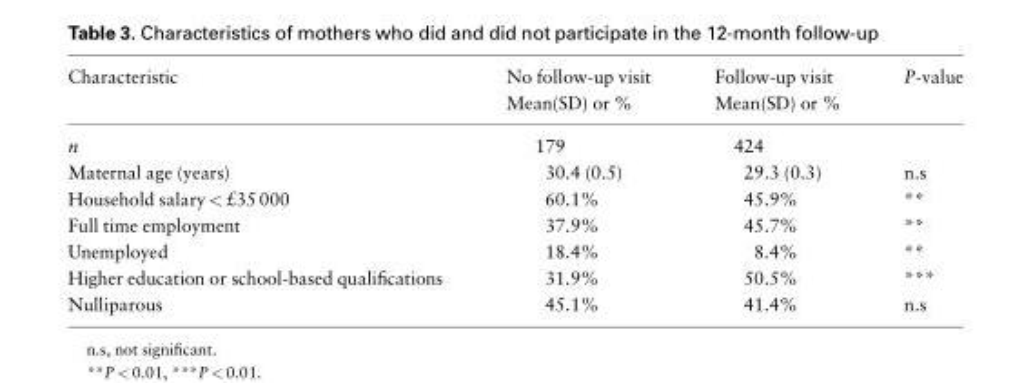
<table><thead><tr><td>Characteristic</td><td>No follow-up visit Mean(SD) or %</td><td>Follow-up visit Mean(SD) or %</td><td>P-value</td></tr></thead><tbody><tr><td>n</td><td>179</td><td>424</td><td></td></tr><tr><td>Maternal age (years)</td><td>30.4 (0.5)</td><td>29.3 (0.3)</td><td>n.s</td></tr><tr><td>Household salary &lt; £35 000</td><td>60.1%</td><td>45.9%</td><td>**</td></tr><tr><td>Full time employment</td><td>37.9%</td><td>45.7%</td><td>**</td></tr><tr><td>Unemployed</td><td>18.4%</td><td>8.4%</td><td>**</td></tr><tr><td>Higher education or school-based qualifications</td><td>31.9%</td><td>50.5%</td><td>***</td></tr><tr><td>Nulliparous</td><td>45.1%</td><td>41.4%</td><td>n.s</td></tr></tbody></table>